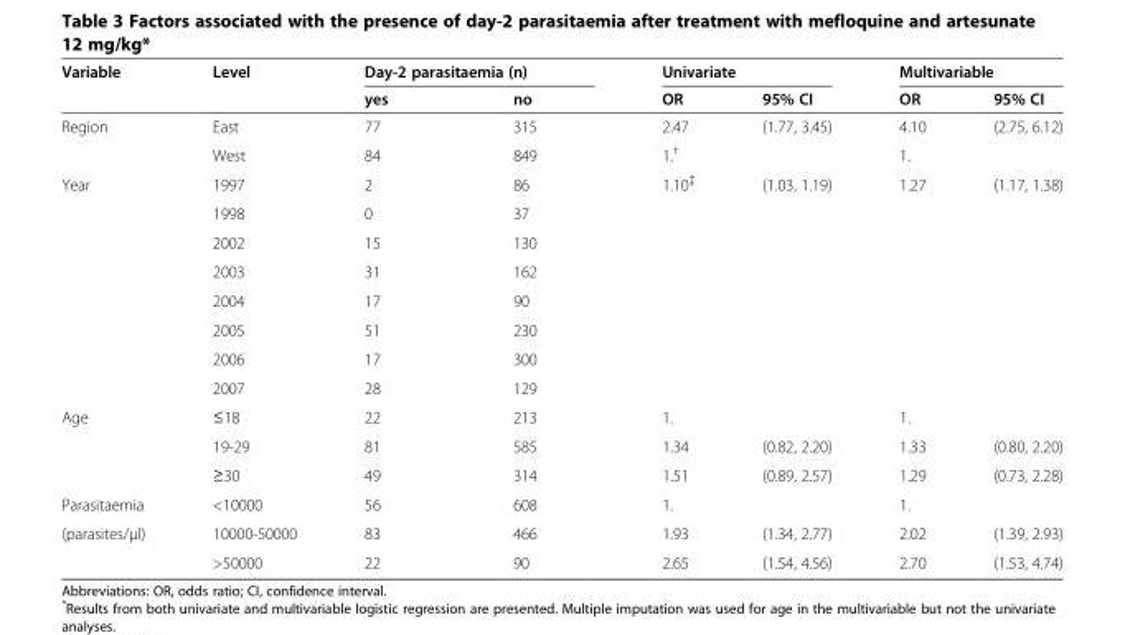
<table><thead><tr><td rowspan="2">Variable</td><td rowspan="2">Level</td><td colspan="2">Day-2 parasitaemia (n)</td><td colspan="2">Univariate</td><td colspan="2">Multivariable</td></tr><tr><td>yes</td><td>no</td><td>OR</td><td>95% CI</td><td>OR</td><td>95% CI</td></tr></thead><tbody><tr><td rowspan="2">Region</td><td>East</td><td>77</td><td>315</td><td>2.47</td><td>(1.77, 3.45)</td><td>4.10</td><td>(2.75, 6.12)</td></tr><tr><td>West</td><td>84</td><td>849</td><td>1.<sup>†</sup></td><td></td><td>1.</td><td></td></tr><tr><td rowspan="8">Year</td><td>1997</td><td>2</td><td>86</td><td>1.10<sup>‡</sup></td><td>(1.03, 1.19)</td><td>1.27</td><td>(1.17, 1.38)</td></tr><tr><td>1998</td><td>0</td><td>37</td><td></td><td></td><td></td><td></td></tr><tr><td>2002</td><td>15</td><td>130</td><td></td><td></td><td></td><td></td></tr><tr><td>2003</td><td>31</td><td>162</td><td></td><td></td><td></td><td></td></tr><tr><td>2004</td><td>17</td><td>90</td><td></td><td></td><td></td><td></td></tr><tr><td>2005</td><td>51</td><td>230</td><td></td><td></td><td></td><td></td></tr><tr><td>2006</td><td>17</td><td>300</td><td></td><td></td><td></td><td></td></tr><tr><td>2007</td><td>28</td><td>129</td><td></td><td></td><td></td><td></td></tr><tr><td rowspan="3">Age</td><td>≤18</td><td>22</td><td>213</td><td>1.</td><td></td><td>1.</td><td></td></tr><tr><td>19-29</td><td>81</td><td>585</td><td>1.34</td><td>(0.82, 2.20)</td><td>1.33</td><td>(0.80, 2.20)</td></tr><tr><td>≥30</td><td>49</td><td>314</td><td>1.51</td><td>(0.89, 2.57)</td><td>1.29</td><td>(0.73, 2.28)</td></tr><tr><td>Parasitaemia</td><td>&lt;10000</td><td>56</td><td>608</td><td>1.</td><td></td><td>1.</td><td></td></tr><tr><td rowspan="2">(parasites/μl)</td><td>10000-50000</td><td>83</td><td>466</td><td>1.93</td><td>(1.34, 2.77)</td><td>2.02</td><td>(1.39, 2.93)</td></tr><tr><td>&gt;50000</td><td>22</td><td>90</td><td>2.65</td><td>(1.54, 4.56)</td><td>2.70</td><td>(1.53, 4.74)</td></tr></tbody></table>